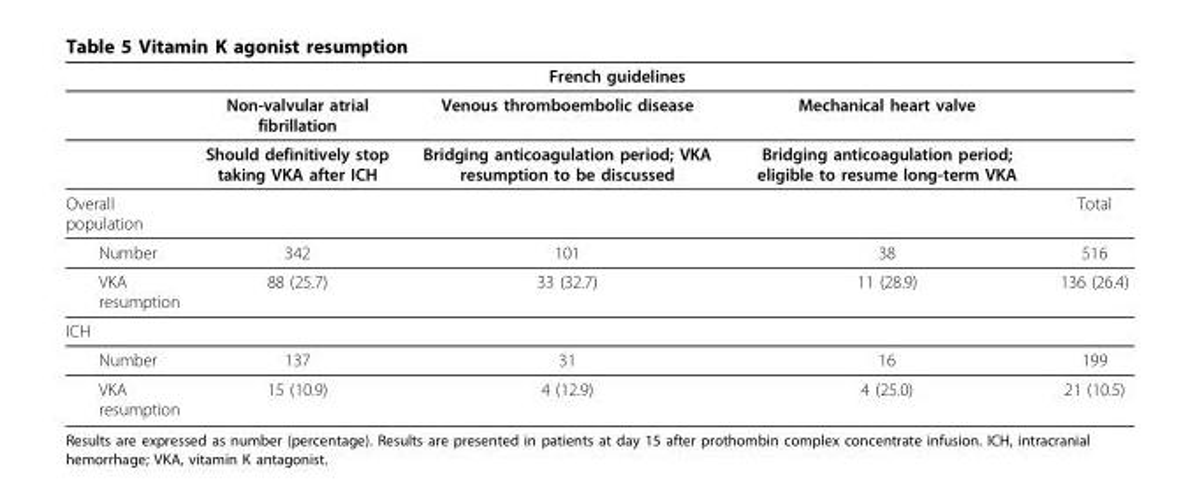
<table><thead><tr><td rowspan="2"></td><td colspan="3">French guidelines</td><td rowspan="2"></td></tr><tr><td>Non-valvular atrial fibrillation</td><td>Venous thromboembolic disease</td><td>Mechanical heart valve</td></tr></thead><tbody><tr><td></td><td>Should definitively stop taking VKA after ICH</td><td>Bridging anticoagulation period; VKA resumption to be discussed</td><td>Bridging anticoagulation period; eligible to resume long-term VKA</td><td></td></tr><tr><td>Overall population</td><td></td><td></td><td></td><td>Total</td></tr><tr><td>Number</td><td>342</td><td>101</td><td>38</td><td>516</td></tr><tr><td>VKA resumption</td><td>88 (25.7)</td><td>33 (32.7)</td><td>11 (28.9)</td><td>136 (26.4)</td></tr><tr><td colspan="5">ICH</td></tr><tr><td>Number</td><td>137</td><td>31</td><td>16</td><td>199</td></tr><tr><td>VKA resumption</td><td>15 (10.9)</td><td>4 (12.9)</td><td>4 (25.0)</td><td>21 (10.5)</td></tr></tbody></table>